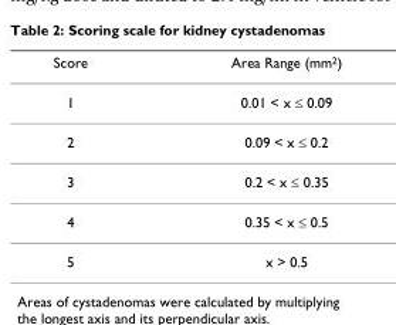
<table><thead><tr><td>Score</td><td>Area Range (mm<sup>2</sup>)</td></tr></thead><tbody><tr><td>1</td><td>0.01 &lt; x ≤ 0.09</td></tr><tr><td>2</td><td>0.09 &lt; x ≤ 0.2</td></tr><tr><td>3</td><td>0.2 &lt; x ≤ 0.35</td></tr><tr><td>4</td><td>0.35 &lt; x ≤ 0.5</td></tr><tr><td>5</td><td>x &gt; 0.5</td></tr></tbody></table>